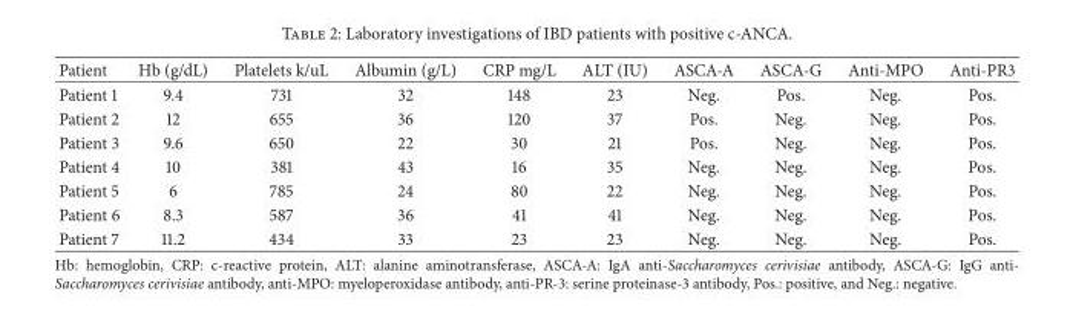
<table><thead><tr><td>Patient</td><td>Hb (g/dL)</td><td>Platelets k/uL</td><td>Albumin (g/L)</td><td>CRP mg/L</td><td>ALT (IU)</td><td>ASCA-A</td><td>ASCA-G</td><td>Anti-MPO</td><td>Anti-PR3</td></tr></thead><tbody><tr><td>Patient 1</td><td>9.4</td><td>731</td><td>32</td><td>148</td><td>23</td><td>Neg.</td><td>Pos.</td><td>Neg.</td><td>Pos.</td></tr><tr><td>Patient 2</td><td>12</td><td>655</td><td>36</td><td>120</td><td>37</td><td>Pos.</td><td>Neg.</td><td>Neg.</td><td>Pos.</td></tr><tr><td>Patient 3</td><td>9.6</td><td>650</td><td>22</td><td>30</td><td>21</td><td>Pos.</td><td>Neg.</td><td>Neg.</td><td>Pos.</td></tr><tr><td>Patient 4</td><td>10</td><td>381</td><td>43</td><td>16</td><td>35</td><td>Neg.</td><td>Neg.</td><td>Neg.</td><td>Pos.</td></tr><tr><td>Patient 5</td><td>6</td><td>785</td><td>24</td><td>80</td><td>22</td><td>Neg.</td><td>Neg.</td><td>Neg.</td><td>Pos.</td></tr><tr><td>Patient 6</td><td>8.3</td><td>587</td><td>36</td><td>41</td><td>41</td><td>Neg.</td><td>Neg.</td><td>Neg.</td><td>Pos.</td></tr><tr><td>Patient 7</td><td>11.2</td><td>434</td><td>33</td><td>23</td><td>23</td><td>Neg.</td><td>Neg.</td><td>Neg.</td><td>Pos.</td></tr></tbody></table>